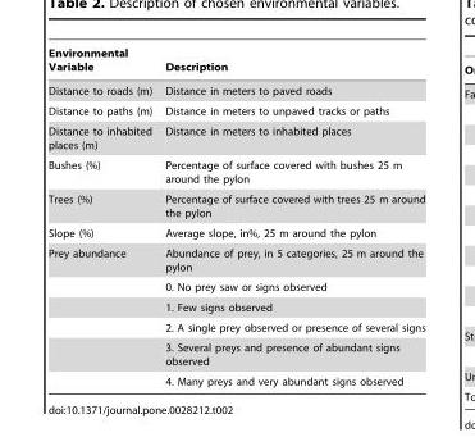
<table><thead><tr><td>Environmental Variable</td><td>Description</td></tr></thead><tbody><tr><td>Distance to roads (m)</td><td>Distance in meters to paved roads</td></tr><tr><td>Distance to paths (m)</td><td>Distance in meters to unpaved tracks or paths</td></tr><tr><td>Distance to inhabited places (m)</td><td>Distance in meters to inhabited places</td></tr><tr><td>Bushes (%)</td><td>Percentage of surface covered with bushes 25 m around the pylon</td></tr><tr><td>Trees (%)</td><td>Percentage of surface covered with trees 25 m around the pylon</td></tr><tr><td>Slope (%)</td><td>Average slope, in%, 25 m around the pylon</td></tr><tr><td rowspan="6">Prey abundance</td><td>Abundance of prey, in 5 categories, 25 m around the pylon</td></tr><tr><td>0. No prey saw or signs observed</td></tr><tr><td>1. Few signs observed</td></tr><tr><td>2. A single prey observed or presence of several signs</td></tr><tr><td>3. Several preys and presence of abundant signs observed</td></tr><tr><td>4. Many preys and very abundant signs observed</td></tr></tbody></table>